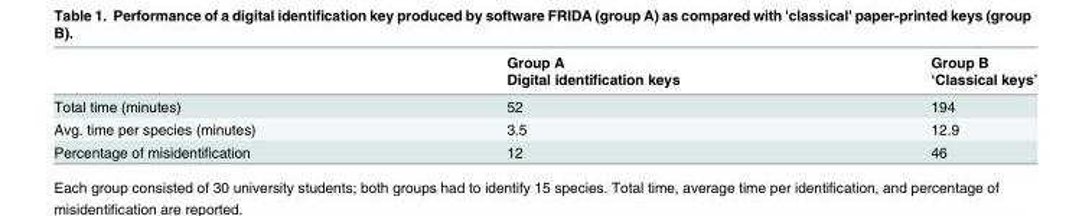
<table><thead><tr><td rowspan="2"></td><td rowspan="2">Group A Digital identification keys</td><td rowspan="2">Group B ‘Classical keys’</td></tr><tr></tr></thead><tbody><tr><td>Total time (minutes)</td><td>52</td><td>194</td></tr><tr><td>Avg. time per species (minutes)</td><td>3.5</td><td>12.9</td></tr><tr><td>Percentage of misidentification</td><td>12</td><td>46</td></tr></tbody></table>